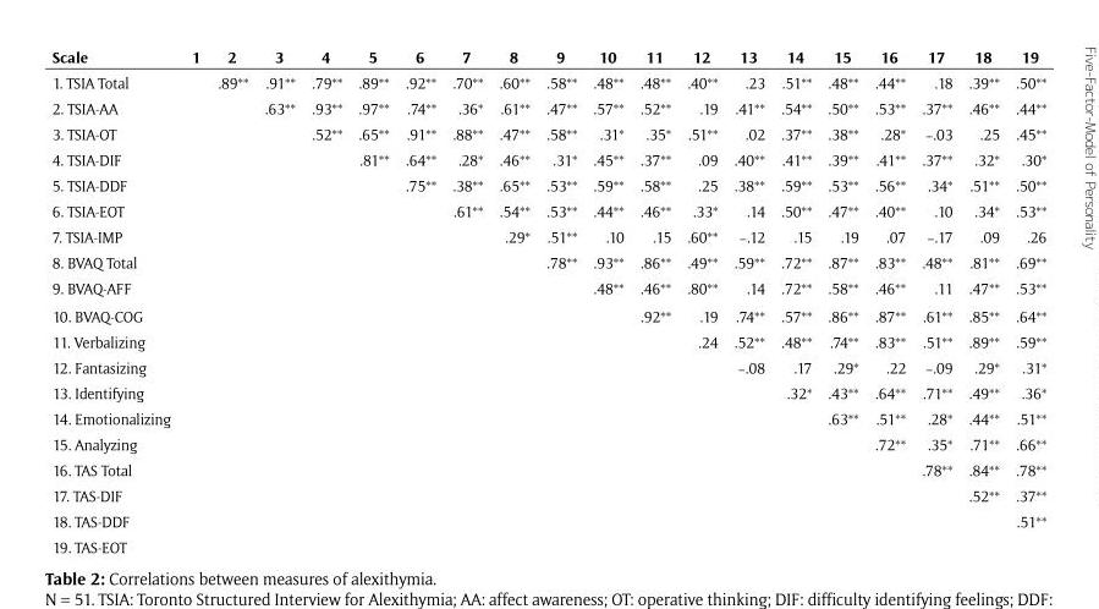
<table><thead><tr><td>Scale</td><td>1</td><td>2</td><td>3</td><td>4</td><td>5</td><td>6</td><td>7</td><td>8</td><td>9</td><td>10</td><td>11</td><td>12</td><td>13</td><td>14</td><td>15</td><td>16</td><td>17</td><td>18</td><td>19</td></tr></thead><tbody><tr><td>1. TSIA Total</td><td></td><td>.89**</td><td>.91**</td><td>.79**</td><td>.89**</td><td>.92**</td><td>.70**</td><td>.60**</td><td>.58**</td><td>.48**</td><td>.48**</td><td>.40**</td><td>.23</td><td>.51**</td><td>.48**</td><td>.44**</td><td>.18</td><td>.39**</td><td>.50**</td></tr><tr><td>2. TSIA-AA</td><td></td><td></td><td>.63**</td><td>.93**</td><td>.97**</td><td>.74**</td><td>.36*</td><td>.61**</td><td>.47**</td><td>.57**</td><td>.52**</td><td>.19</td><td>.41**</td><td>.54**</td><td>.50**</td><td>.53**</td><td>.37**</td><td>.46**</td><td>.44**</td></tr><tr><td>3. TSIA-OT</td><td></td><td></td><td></td><td>.52**</td><td>.65**</td><td>.91**</td><td>.88**</td><td>.47**</td><td>.58**</td><td>.31*</td><td>.35*</td><td>.51**</td><td>.02</td><td>.37**</td><td>.38**</td><td>.28*</td><td>−.03</td><td>.25</td><td>.45**</td></tr><tr><td>4. TSIA-DIF</td><td></td><td></td><td></td><td></td><td>.81**</td><td>.64**</td><td>.28*</td><td>.46**</td><td>.31*</td><td>.45**</td><td>.37**</td><td>.09</td><td>.40**</td><td>.41**</td><td>.39**</td><td>.41**</td><td>.37**</td><td>.32*</td><td>.30*</td></tr><tr><td>5. TSIA-DDF</td><td></td><td></td><td></td><td></td><td></td><td>.75**</td><td>.38**</td><td>.65**</td><td>.53**</td><td>.59**</td><td>.58**</td><td>.25</td><td>.38**</td><td>.59**</td><td>.53**</td><td>.56**</td><td>.34*</td><td>.51**</td><td>.50**</td></tr><tr><td>6. TSIA-EOT</td><td></td><td></td><td></td><td></td><td></td><td></td><td>.61**</td><td>.54**</td><td>.53**</td><td>.44**</td><td>.46**</td><td>.33*</td><td>.14</td><td>.50**</td><td>.47**</td><td>.40**</td><td>.10</td><td>.34*</td><td>.53**</td></tr><tr><td>7. TSIA-IMP</td><td></td><td></td><td></td><td></td><td></td><td></td><td></td><td>.29*</td><td>.51**</td><td>.10</td><td>.15</td><td>.60**</td><td>−.12</td><td>.15</td><td>.19</td><td>.07</td><td>−.17</td><td>.09</td><td>.26</td></tr><tr><td>8. BVAQ Total</td><td></td><td></td><td></td><td></td><td></td><td></td><td></td><td></td><td>.78**</td><td>.93**</td><td>.86**</td><td>.49**</td><td>.59**</td><td>.72**</td><td>.87**</td><td>.83**</td><td>.48**</td><td>.81**</td><td>.69**</td></tr><tr><td>9. BVAQ-AFF</td><td></td><td></td><td></td><td></td><td></td><td></td><td></td><td></td><td></td><td>.48**</td><td>.46**</td><td>.80**</td><td>.14</td><td>.72**</td><td>.58**</td><td>.46**</td><td>.11</td><td>.47**</td><td>.53**</td></tr><tr><td>10. BVAQ-COG</td><td></td><td></td><td></td><td></td><td></td><td></td><td></td><td></td><td></td><td></td><td>.92**</td><td>.19</td><td>.74**</td><td>.57**</td><td>.86**</td><td>.87**</td><td>.61**</td><td>.85**</td><td>.64**</td></tr><tr><td>11. Verbalizing</td><td></td><td></td><td></td><td></td><td></td><td></td><td></td><td></td><td></td><td></td><td></td><td>.24</td><td>.52**</td><td>.48**</td><td>.74**</td><td>.83**</td><td>.51**</td><td>.89**</td><td>.59**</td></tr><tr><td>12. Fantasizing</td><td></td><td></td><td></td><td></td><td></td><td></td><td></td><td></td><td></td><td></td><td></td><td></td><td>−.08</td><td>.17</td><td>.29*</td><td>.22</td><td>−.09</td><td>.29*</td><td>.31*</td></tr><tr><td>13. Identifying</td><td></td><td></td><td></td><td></td><td></td><td></td><td></td><td></td><td></td><td></td><td></td><td></td><td></td><td>.32*</td><td>.43**</td><td>.64**</td><td>.71**</td><td>.49**</td><td>.36*</td></tr><tr><td>14. Emotionalizing</td><td></td><td></td><td></td><td></td><td></td><td></td><td></td><td></td><td></td><td></td><td></td><td></td><td></td><td></td><td>.63**</td><td>.51**</td><td>.28*</td><td>.44**</td><td>.51**</td></tr><tr><td>15. Analyzing</td><td></td><td></td><td></td><td></td><td></td><td></td><td></td><td></td><td></td><td></td><td></td><td></td><td></td><td></td><td></td><td>.72**</td><td>.35*</td><td>.71**</td><td>.66**</td></tr><tr><td>16. TAS Total</td><td></td><td></td><td></td><td></td><td></td><td></td><td></td><td></td><td></td><td></td><td></td><td></td><td></td><td></td><td></td><td></td><td>.78**</td><td>.84**</td><td>.78**</td></tr><tr><td>17. TAS-DIF</td><td></td><td></td><td></td><td></td><td></td><td></td><td></td><td></td><td></td><td></td><td></td><td></td><td></td><td></td><td></td><td></td><td></td><td>.52**</td><td>.37**</td></tr><tr><td>18. TAS-DDF</td><td></td><td></td><td></td><td></td><td></td><td></td><td></td><td></td><td></td><td></td><td></td><td></td><td></td><td></td><td></td><td></td><td></td><td></td><td>.51**</td></tr><tr><td>19. TAS-EOT</td><td></td><td></td><td></td><td></td><td></td><td></td><td></td><td></td><td></td><td></td><td></td><td></td><td></td><td></td><td></td><td></td><td></td><td></td><td></td></tr></tbody></table>